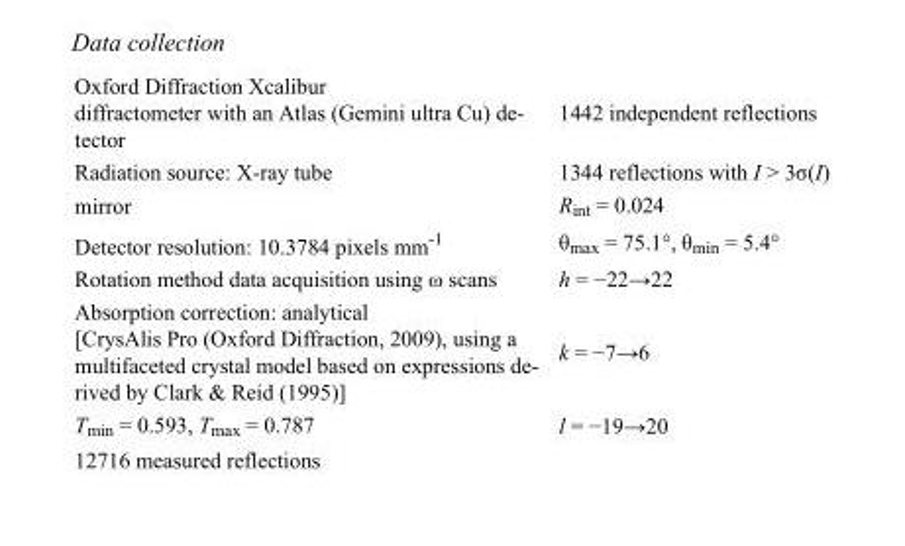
<table><tbody><tr><td>Oxford Diffraction Xcalibur diffractometer with an Atlas (Gemini ultra Cu) de- tector</td><td>1442 independent reflections</td></tr><tr><td>Radiation source: X-ray tube</td><td>1344 reflections with I &gt; 3σ(I)</td></tr><tr><td>mirror</td><td>R<sub>int</sub> = 0.024</td></tr><tr><td>Detector resolution: 10.3784 pixels mm<sup>-1</sup></td><td>θ<sub>max</sub> = 75.1°, θ<sub>min</sub> = 5.4°</td></tr><tr><td>Rotation method data acquisition using ω scans</td><td>h = −22→22</td></tr><tr><td>Absorption correction: analytical [CrysAlis Pro (Oxford Diffraction, 2009), using a multifaceted crystal model based on expressions de- rived by Clark &amp; Reid (1995)]</td><td>k = −7→6</td></tr><tr><td>T<sub>min</sub> = 0.593, T<sub>max</sub> = 0.787</td><td>l = −19→20</td></tr><tr><td>12716 measured reflections</td><td></td></tr></tbody></table>